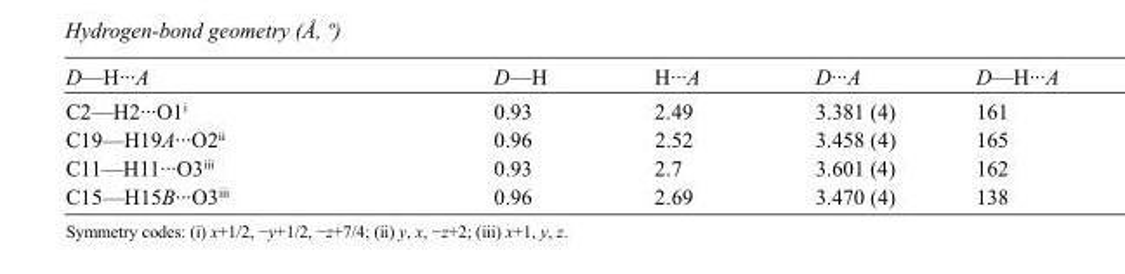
<table><tbody><tr><td>D—H···A</td><td>D—H</td><td>H···A</td><td>D···A</td><td>D—H···A</td></tr><tr><td>C2—H2···O1<sup>i</sup></td><td>0.93</td><td>2.49</td><td>3.381 (4)</td><td>161</td></tr><tr><td>C19—H19A···O2<sup>ii</sup></td><td>0.96</td><td>2.52</td><td>3.458 (4)</td><td>165</td></tr><tr><td>C11—H11···O3<sup>iii</sup></td><td>0.93</td><td>2.7</td><td>3.601 (4)</td><td>162</td></tr><tr><td>C15—H15B···O3<sup>iii</sup></td><td>0.96</td><td>2.69</td><td>3.470 (4)</td><td>138</td></tr></tbody></table>